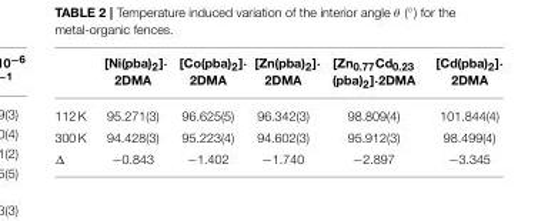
<table><thead><tr><td></td><td>[Ni(pba)<sub>2</sub>]· 2DMA</td><td>[Co(pba)<sub>2</sub>]· 2DMA</td><td>[Zn(pba)<sub>2</sub>]· 2DMA</td><td>[Zn<sub>0.77</sub>Cd<sub>0.23</sub> (pba)<sub>2</sub>]·2DMA</td><td>[Cd(pba)<sub>2</sub>]· 2DMA</td></tr></thead><tbody><tr><td>112 K</td><td>95.271(3)</td><td>96.625(5)</td><td>96.342(3)</td><td>98.809(4)</td><td>101.844(4)</td></tr><tr><td>300 K</td><td>94.428(3)</td><td>95.223(4)</td><td>94.602(3)</td><td>95.912(3)</td><td>98.499(4)</td></tr><tr><td>Δ</td><td>−0.843</td><td>−1.402</td><td>−1.740</td><td>−2.897</td><td>−3.345</td></tr></tbody></table>